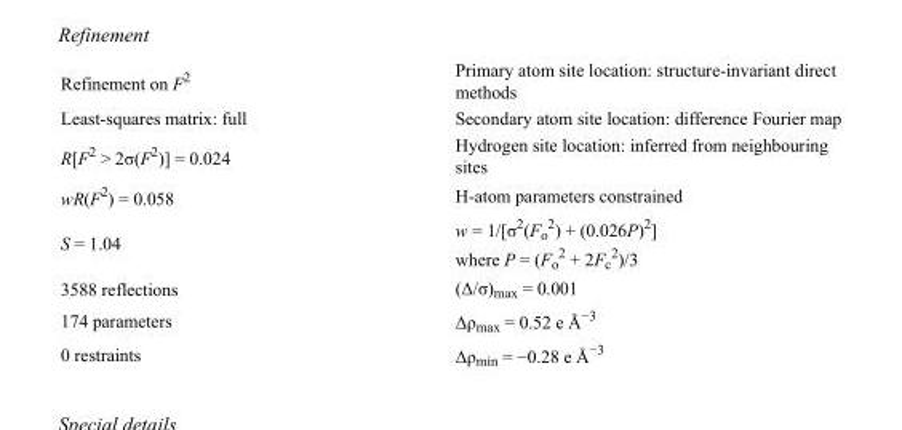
<table><tbody><tr><td>Refinement on F<sup>2</sup></td><td>Primary atom site location: structure-invariant direct methods</td></tr><tr><td>Least-squares matrix: full</td><td>Secondary atom site location: difference Fourier map</td></tr><tr><td>R[F<sup>2</sup> &gt; 2σ(F<sup>2</sup>)] = 0.024</td><td>Hydrogen site location: inferred from neighbouring sites</td></tr><tr><td>wR(F<sup>2</sup>) = 0.058</td><td>H-atom parameters constrained</td></tr><tr><td>S = 1.04</td><td>w = 1/[σ<sup>2</sup>(F<sub>o</sub> <sup>2</sup>) + (0.026P)<sup>2</sup>] where P = (F<sub>o</sub> <sup>2</sup> + 2F<sub>c</sub> <sup>2</sup>)/3</td></tr><tr><td>3588 reflections</td><td>(Δ/σ)<sub>max</sub> = 0.001</td></tr><tr><td>174 parameters</td><td>Δρ<sub>max</sub> = 0.52 e Å<sup>−3</sup></td></tr><tr><td>0 restraints</td><td>Δρ<sub>min</sub> = −0.28 e Å<sup>−3</sup></td></tr></tbody></table>